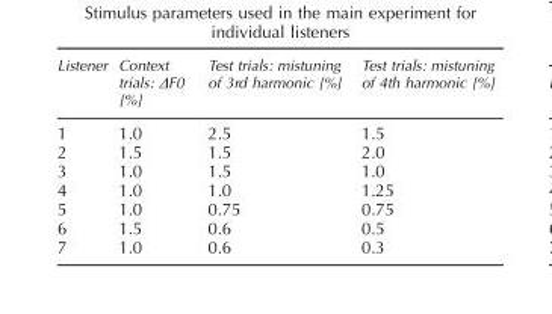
<table><thead><tr><td>Listener</td><td>Context trials: ΔF0 [%]</td><td>Test trials: mistuning of 3rd harmonic [%]</td><td>Test trials: mistuning of 4th harmonic [%]</td></tr></thead><tbody><tr><td>1</td><td>1.0</td><td>2.5</td><td>1.5</td></tr><tr><td>2</td><td>1.5</td><td>1.5</td><td>2.0</td></tr><tr><td>3</td><td>1.0</td><td>1.5</td><td>1.0</td></tr><tr><td>4</td><td>1.0</td><td>1.0</td><td>1.25</td></tr><tr><td>5</td><td>1.0</td><td>0.75</td><td>0.75</td></tr><tr><td>6</td><td>1.5</td><td>0.6</td><td>0.5</td></tr><tr><td>7</td><td>1.0</td><td>0.6</td><td>0.3</td></tr></tbody></table>